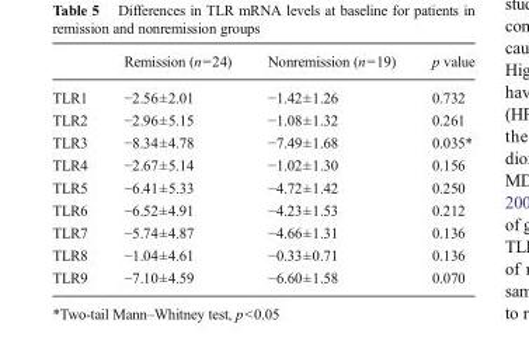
<table><thead><tr><td></td><td>Remission (n=24)</td><td>Nonremission (n=19)</td><td>p value</td></tr></thead><tbody><tr><td>TLR1</td><td>−2.56±2.01</td><td>−1.42±1.26</td><td>0.732</td></tr><tr><td>TLR2</td><td>−2.96±5.15</td><td>−1.08±1.32</td><td>0.261</td></tr><tr><td>TLR3</td><td>−8.34±4.78</td><td>−7.49±1.68</td><td>0.035*</td></tr><tr><td>TLR4</td><td>−2.67±5.14</td><td>−1.02±1.30</td><td>0.156</td></tr><tr><td>TLR5</td><td>−6.41±5.33</td><td>−4.72±1.42</td><td>0.250</td></tr><tr><td>TLR6</td><td>−6.52±4.91</td><td>−4.23±1.53</td><td>0.212</td></tr><tr><td>TLR7</td><td>−5.74±4.87</td><td>−4.66±1.31</td><td>0.136</td></tr><tr><td>TLR8</td><td>−1.04±4.61</td><td>−0.33±0.71</td><td>0.136</td></tr><tr><td>TLR9</td><td>−7.10±4.59</td><td>−6.60±1.58</td><td>0.070</td></tr></tbody></table>